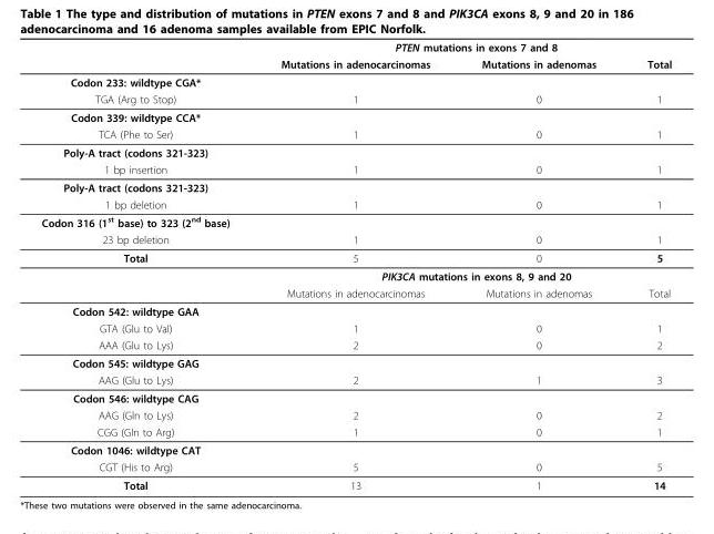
<table><thead><tr><td rowspan="2"></td><td colspan="3">PTEN mutations in exons 7 and 8</td></tr><tr><td>Mutations in adenocarcinomas</td><td>Mutations in adenomas</td><td>Total</td></tr></thead><tbody><tr><td colspan="4">Codon 233: wildtype CGA*</td></tr><tr><td>TGA (Arg to Stop)</td><td>1</td><td>0</td><td>1</td></tr><tr><td colspan="4">Codon 339: wildtype CCA*</td></tr><tr><td>TCA (Phe to Ser)</td><td>1</td><td>0</td><td>1</td></tr><tr><td colspan="4">Poly-A tract (codons 321-323)</td></tr><tr><td>1 bp insertion</td><td>1</td><td>0</td><td>1</td></tr><tr><td colspan="4">Poly-A tract (codons 321-323)</td></tr><tr><td>1 bp deletion</td><td>1</td><td>0</td><td>1</td></tr><tr><td colspan="4">Codon 316 (1<sup>st</sup> base) to 323 (2<sup>nd</sup> base)</td></tr><tr><td>23 bp deletion</td><td>1</td><td>0</td><td>1</td></tr><tr><td rowspan="3">Total</td><td>5</td><td>0</td><td>5</td></tr><tr><td colspan="3">PIK3CA mutations in exons 8, 9 and 20</td></tr><tr><td>Mutations in adenocarcinomas</td><td>Mutations in adenomas</td><td>Total</td></tr><tr><td colspan="4">Codon 542: wildtype GAA</td></tr><tr><td>GTA (Glu to Val)</td><td>1</td><td>0</td><td>1</td></tr><tr><td>AAA (Glu to Lys)</td><td>2</td><td>0</td><td>2</td></tr><tr><td colspan="4">Codon 545: wildtype GAG</td></tr><tr><td>AAG (Glu to Lys)</td><td>2</td><td>1</td><td>3</td></tr><tr><td colspan="4">Codon 546: wildtype CAG</td></tr><tr><td>AAG (Gln to Lys)</td><td>2</td><td>0</td><td>2</td></tr><tr><td>CGG (Gln to Arg)</td><td>1</td><td>0</td><td>1</td></tr><tr><td colspan="4">Codon 1046: wildtype CAT</td></tr><tr><td>CGT (His to Arg)</td><td>5</td><td>0</td><td>5</td></tr><tr><td>Total</td><td>13</td><td>1</td><td>14</td></tr></tbody></table>